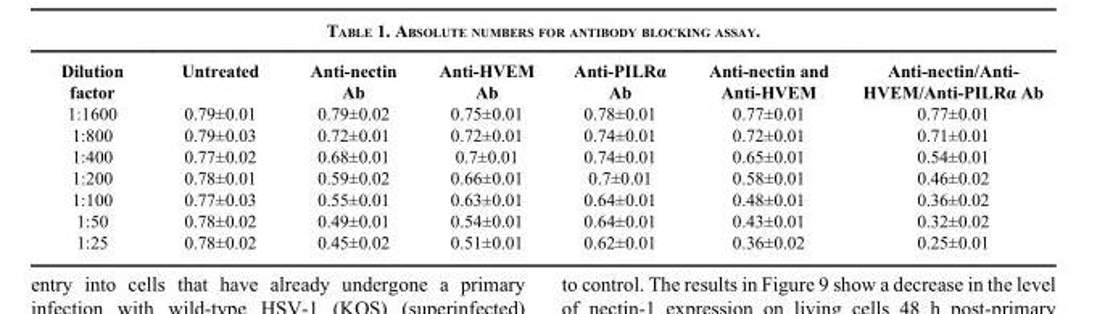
<table><thead><tr><td>Dilution factor</td><td>Untreated</td><td>Anti-nectin Ab</td><td>Anti-HVEM Ab</td><td>Anti-PILRα Ab</td><td>Anti-nectin and Anti-HVEM</td><td>Anti-nectin/Anti- HVEM/Anti-PILRα Ab</td></tr></thead><tbody><tr><td>1:1600</td><td>0.79±0.01</td><td>0.79±0.02</td><td>0.75±0.01</td><td>0.78±0.01</td><td>0.77±0.01</td><td>0.77±0.01</td></tr><tr><td>1:800</td><td>0.79±0.03</td><td>0.72±0.01</td><td>0.72±0.01</td><td>0.74±0.01</td><td>0.72±0.01</td><td>0.71±0.01</td></tr><tr><td>1:400</td><td>0.77±0.02</td><td>0.68±0.01</td><td>0.7±0.01</td><td>0.74±0.01</td><td>0.65±0.01</td><td>0.54±0.01</td></tr><tr><td>1:200</td><td>0.78±0.01</td><td>0.59±0.02</td><td>0.66±0.01</td><td>0.7±0.01</td><td>0.58±0.01</td><td>0.46±0.02</td></tr><tr><td>1:100</td><td>0.77±0.03</td><td>0.55±0.01</td><td>0.63±0.01</td><td>0.64±0.01</td><td>0.48±0.01</td><td>0.36±0.02</td></tr><tr><td>1:50</td><td>0.78±0.02</td><td>0.49±0.01</td><td>0.54±0.01</td><td>0.64±0.01</td><td>0.43±0.01</td><td>0.32±0.02</td></tr><tr><td>1:25</td><td>0.78±0.02</td><td>0.45±0.02</td><td>0.51±0.01</td><td>0.62±0.01</td><td>0.36±0.02</td><td>0.25±0.01</td></tr></tbody></table>